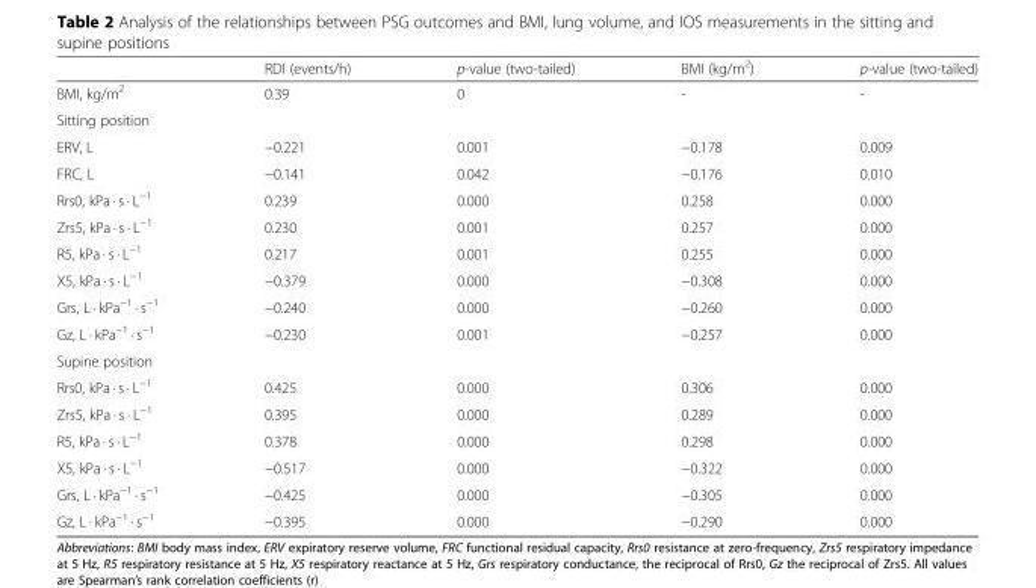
<table><thead><tr><td></td><td>RDI (events/h)</td><td>p-value (two-tailed)</td><td>BMI (kg/m<sup>2</sup>)</td><td>p-value (two-tailed)</td></tr></thead><tbody><tr><td>BMI, kg/m<sup>2</sup></td><td>0.39</td><td>0</td><td>-</td><td>-</td></tr><tr><td colspan="5">Sitting position</td></tr><tr><td>ERV, L</td><td>−0.221</td><td>0.001</td><td>−0.178</td><td>0.009</td></tr><tr><td>FRC, L</td><td>−0.141</td><td>0.042</td><td>−0.176</td><td>0.010</td></tr><tr><td>Rrs0, kPa · s · L<sup>−1</sup></td><td>0.239</td><td>0.000</td><td>0.258</td><td>0.000</td></tr><tr><td>Zrs5, kPa · s · L<sup>−1</sup></td><td>0.230</td><td>0.001</td><td>0.257</td><td>0.000</td></tr><tr><td>R5, kPa · s · L<sup>−1</sup></td><td>0.217</td><td>0.001</td><td>0.255</td><td>0.000</td></tr><tr><td>X5, kPa · s · L<sup>−1</sup></td><td>−0.379</td><td>0.000</td><td>−0.308</td><td>0.000</td></tr><tr><td>Grs, L · kPa<sup>−1</sup> · s<sup>−1</sup></td><td>−0.240</td><td>0.000</td><td>−0.260</td><td>0.000</td></tr><tr><td>Gz, L · kPa<sup>−1</sup> · s<sup>−1</sup></td><td>−0.230</td><td>0.001</td><td>−0.257</td><td>0.000</td></tr><tr><td colspan="5">Supine position</td></tr><tr><td>Rrs0, kPa · s · L<sup>−1</sup></td><td>0.425</td><td>0.000</td><td>0.306</td><td>0.000</td></tr><tr><td>Zrs5, kPa · s · L<sup>−1</sup></td><td>0.395</td><td>0.000</td><td>0.289</td><td>0.000</td></tr><tr><td>R5, kPa · s · L<sup>−1</sup></td><td>0.378</td><td>0.000</td><td>0.298</td><td>0.000</td></tr><tr><td>X5, kPa · s · L<sup>−1</sup></td><td>−0.517</td><td>0.000</td><td>−0.322</td><td>0.000</td></tr><tr><td>Grs, L · kPa<sup>−1</sup> · s<sup>−1</sup></td><td>−0.425</td><td>0.000</td><td>−0.305</td><td>0.000</td></tr><tr><td>Gz, L · kPa<sup>−1</sup> · s<sup>−1</sup></td><td>−0.395</td><td>0.000</td><td>−0.290</td><td>0.000</td></tr></tbody></table>